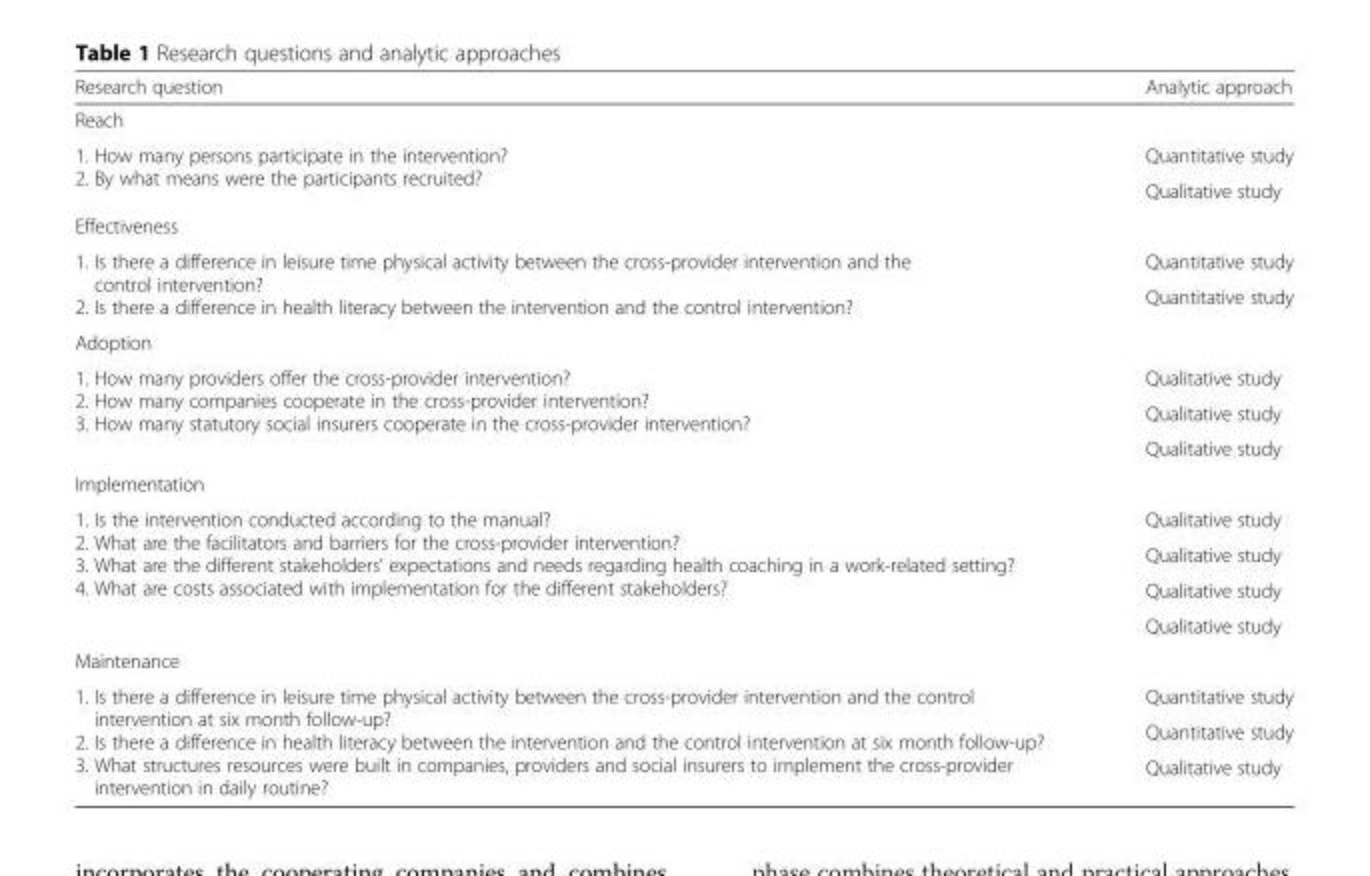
<table><thead><tr><td>Research question</td><td>Analytic approach</td></tr></thead><tbody><tr><td colspan="2">Reach</td></tr><tr><td rowspan="2">1. How many persons participate in the intervention? 2. By what means were the participants recruited?</td><td>Quantitative study</td></tr><tr><td>Qualitative study</td></tr><tr><td colspan="2">Effectiveness</td></tr><tr><td rowspan="2">1. Is there a difference in leisure time physical activity between the cross-provider intervention and the control intervention? 2. Is there a difference in health literacy between the intervention and the control intervention?</td><td>Quantitative study</td></tr><tr><td>Quantitative study</td></tr><tr><td colspan="2">Adoption</td></tr><tr><td rowspan="3">1. How many providers offer the cross-provider intervention? 2. How many companies cooperate in the cross-provider intervention? 3. How many statutory social insurers cooperate in the cross-provider intervention?</td><td>Qualitative study</td></tr><tr><td>Qualitative study</td></tr><tr><td>Qualitative study</td></tr><tr><td colspan="2">Implementation</td></tr><tr><td rowspan="4">1. Is the intervention conducted according to the manual? 2. What are the facilitators and barriers for the cross-provider intervention? 3. What are the different stakeholders’ expectations and needs regarding health coaching in a work-related setting? 4. What are costs associated with implementation for the different stakeholders?</td><td>Qualitative study</td></tr><tr><td>Qualitative study</td></tr><tr><td>Qualitative study</td></tr><tr><td>Qualitative study</td></tr><tr><td colspan="2">Maintenance</td></tr><tr><td rowspan="3">1. Is there a difference in leisure time physical activity between the cross-provider intervention and the control intervention at six month follow-up? 2. Is there a difference in health literacy between the intervention and the control intervention at six month follow-up? 3. What structures resources were built in companies, providers and social insurers to implement the cross-provider intervention in daily routine?</td><td>Quantitative study</td></tr><tr><td>Quantitative study</td></tr><tr><td>Qualitative study</td></tr></tbody></table>